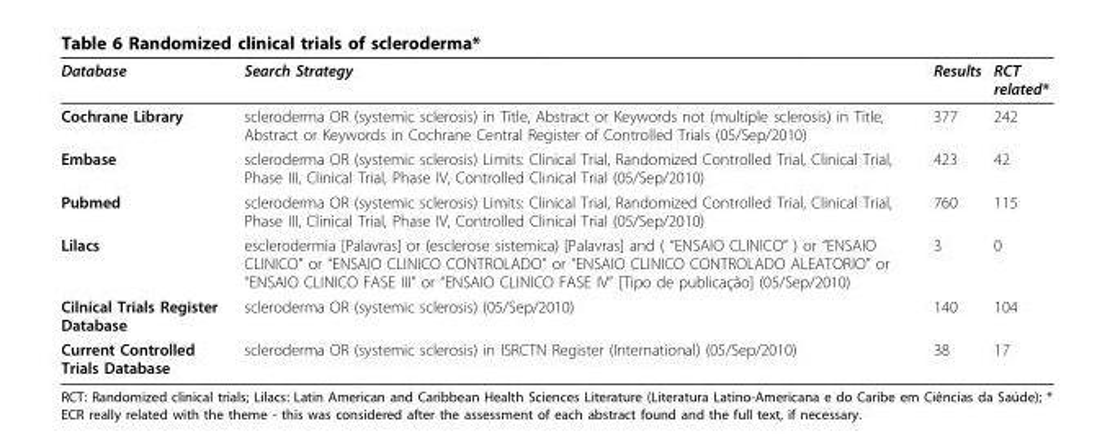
<table><thead><tr><td>Database</td><td>Search Strategy</td><td>Results</td><td>RCT related*</td></tr></thead><tbody><tr><td>Cochrane Library</td><td>scleroderma OR (systemic sclerosis) in Title, Abstract or Keywords not (multiple sclerosis) in Title, Abstract or Keywords in Cochrane Central Register of Controlled Trials (05/Sep/2010)</td><td>377</td><td>242</td></tr><tr><td>Embase</td><td>scleroderma OR (systemic sclerosis) Limits: Clinical Trial, Randomized Controlled Trial, Clinical Trial, Phase III, Clinical Trial, Phase IV, Controlled Clinical Trial (05/Sep/2010)</td><td>423</td><td>42</td></tr><tr><td>Pubmed</td><td>scleroderma OR (systemic sclerosis) Limits: Clinical Trial, Randomized Controlled Trial, Clinical Trial, Phase III, Clinical Trial, Phase IV, Controlled Clinical Trial (05/Sep/2010)</td><td>760</td><td>115</td></tr><tr><td>Lilacs</td><td>esclerodermia [Palavras] or (esclerose sistemica) [Palavras] and ( “ENSAIO CLINICO” ) or “ENSAIO CLINICO” or “ENSAIO CLINICO CONTROLADO” or “ENSAIO CLINICO CONTROLADO ALEATORIO” or “ENSAIO CLINICO FASE III” or “ENSAIO CLINICO FASE IV” [Tipo de publicação] (05/Sep/2010)</td><td>3</td><td>0</td></tr><tr><td>Cilnical Trials Register Database</td><td>scleroderma OR (systemic sclerosis) (05/Sep/2010)</td><td>140</td><td>104</td></tr><tr><td>Current Controlled Trials Database</td><td>scleroderma OR (systemic sclerosis) in ISRCTN Register (International) (05/Sep/2010)</td><td>38</td><td>17</td></tr></tbody></table>